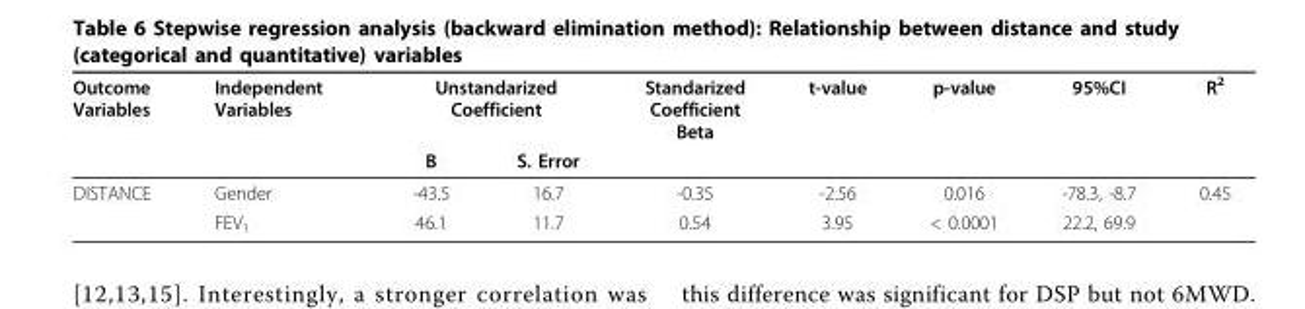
<table><thead><tr><td rowspan="2">Outcome Variables</td><td rowspan="2">Independent Variables</td><td colspan="2">Unstandarized Coefficient</td><td rowspan="2">Standarized Coefficient Beta</td><td rowspan="2">t-value</td><td rowspan="2">p-value</td><td rowspan="2">95%CI</td><td rowspan="2">R<sup>2</sup></td></tr><tr><td>B</td><td>S. Error</td></tr></thead><tbody><tr><td rowspan="2">DISTANCE</td><td>Gender</td><td>-43.5</td><td>16.7</td><td>-0.35</td><td>-2.56</td><td>0.016</td><td>-78.3, -8.7</td><td>0.45</td></tr><tr><td>FEV<sub>1</sub></td><td>46.1</td><td>11.7</td><td>0.54</td><td>3.95</td><td>&lt; 0.0001</td><td>22.2, 69.9</td><td></td></tr></tbody></table>